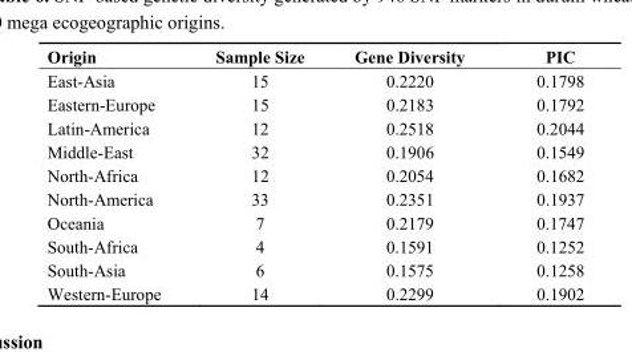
<table><thead><tr><td>Origin</td><td>Sample Size</td><td>Gene Diversity</td><td>PIC</td></tr></thead><tbody><tr><td>East-Asia</td><td>15</td><td>0.2220</td><td>0.1798</td></tr><tr><td>Eastern-Europe</td><td>15</td><td>0.2183</td><td>0.1792</td></tr><tr><td>Latin-America</td><td>12</td><td>0.2518</td><td>0.2044</td></tr><tr><td>Middle-East</td><td>32</td><td>0.1906</td><td>0.1549</td></tr><tr><td>North-Africa</td><td>12</td><td>0.2054</td><td>0.1682</td></tr><tr><td>North-America</td><td>33</td><td>0.2351</td><td>0.1937</td></tr><tr><td>Oceania</td><td>7</td><td>0.2179</td><td>0.1747</td></tr><tr><td>South-Africa</td><td>4</td><td>0.1591</td><td>0.1252</td></tr><tr><td>South-Asia</td><td>6</td><td>0.1575</td><td>0.1258</td></tr><tr><td>Western-Europe</td><td>14</td><td>0.2299</td><td>0.1902</td></tr></tbody></table>